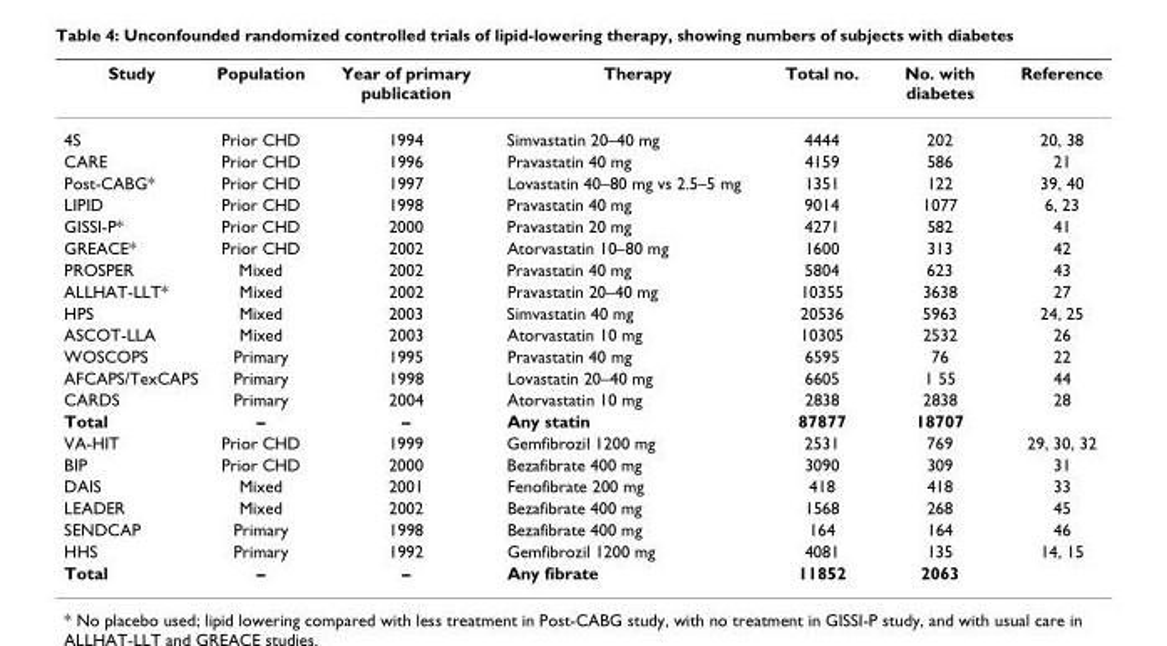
<table><thead><tr><td>Study</td><td>Population</td><td>Year of primary publication</td><td>Therapy</td><td>Total no.</td><td>No. with diabetes</td><td>Reference</td></tr></thead><tbody><tr><td>4S</td><td>Prior CHD</td><td>1994</td><td>Simvastatin 20–40 mg</td><td>4444</td><td>202</td><td>20, 38</td></tr><tr><td>CARE</td><td>Prior CHD</td><td>1996</td><td>Pravastatin 40 mg</td><td>4159</td><td>586</td><td>21</td></tr><tr><td>Post-CABG*</td><td>Prior CHD</td><td>1997</td><td>Lovastatin 40–80 mg vs 2.5–5 mg</td><td>1351</td><td>122</td><td>39, 40</td></tr><tr><td>LIPID</td><td>Prior CHD</td><td>1998</td><td>Pravastatin 40 mg</td><td>9014</td><td>1077</td><td>6, 23</td></tr><tr><td>GISSI-P*</td><td>Prior CHD</td><td>2000</td><td>Pravastatin 20 mg</td><td>4271</td><td>582</td><td>41</td></tr><tr><td>GREACE*</td><td>Prior CHD</td><td>2002</td><td>Atorvastatin 10–80 mg</td><td>1600</td><td>313</td><td>42</td></tr><tr><td>PROSPER</td><td>Mixed</td><td>2002</td><td>Pravastatin 40 mg</td><td>5804</td><td>623</td><td>43</td></tr><tr><td>ALLHAT-LLT*</td><td>Mixed</td><td>2002</td><td>Pravastatin 20–40 mg</td><td>10355</td><td>3638</td><td>27</td></tr><tr><td>HPS</td><td>Mixed</td><td>2003</td><td>Simvastatin 40 mg</td><td>20536</td><td>5963</td><td>24, 25</td></tr><tr><td>ASCOT-LLA</td><td>Mixed</td><td>2003</td><td>Atorvastatin 10 mg</td><td>10305</td><td>2532</td><td>26</td></tr><tr><td>WOSCOPS</td><td>Primary</td><td>1995</td><td>Pravastatin 40 mg</td><td>6595</td><td>76</td><td>22</td></tr><tr><td>AFCAPS/TexCAPS</td><td>Primary</td><td>1998</td><td>Lovastatin 20–40 mg</td><td>6605</td><td>1 55</td><td>44</td></tr><tr><td>CARDS</td><td>Primary</td><td>2004</td><td>Atorvastatin 10 mg</td><td>2838</td><td>2838</td><td>28</td></tr><tr><td>Total</td><td>–</td><td>–</td><td>Any statin</td><td>87877</td><td>18707</td><td></td></tr><tr><td>VA-HIT</td><td>Prior CHD</td><td>1999</td><td>Gemfibrozil 1200 mg</td><td>2531</td><td>769</td><td>29, 30, 32</td></tr><tr><td>BIP</td><td>Prior CHD</td><td>2000</td><td>Bezafibrate 400 mg</td><td>3090</td><td>309</td><td>31</td></tr><tr><td>DAIS</td><td>Mixed</td><td>2001</td><td>Fenofibrate 200 mg</td><td>418</td><td>418</td><td>33</td></tr><tr><td>LEADER</td><td>Mixed</td><td>2002</td><td>Bezafibrate 400 mg</td><td>1568</td><td>268</td><td>45</td></tr><tr><td>SENDCAP</td><td>Primary</td><td>1998</td><td>Bezafibrate 400 mg</td><td>164</td><td>164</td><td>46</td></tr><tr><td>HHS</td><td>Primary</td><td>1992</td><td>Gemfibrozil 1200 mg</td><td>4081</td><td>135</td><td>14, 15</td></tr><tr><td>Total</td><td>–</td><td>–</td><td>Any fibrate</td><td>11852</td><td>2063</td><td></td></tr></tbody></table>